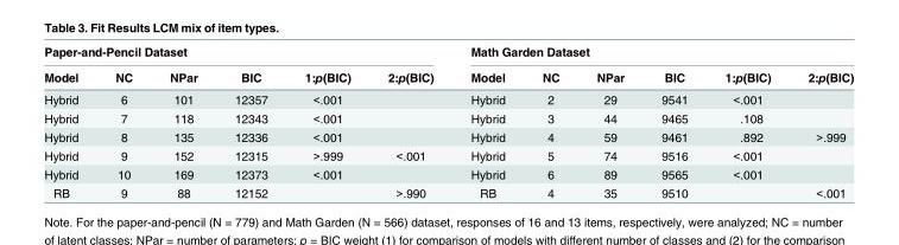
<table><thead><tr><td colspan="6">Paper-and-Pencil Dataset</td><td colspan="6">Math Garden Dataset</td></tr><tr><td>Model</td><td>NC</td><td>NPar</td><td>BIC</td><td>1:p(BIC)</td><td>2:p(BIC)</td><td>Model</td><td>NC</td><td>NPar</td><td>BIC</td><td>1:p(BIC)</td><td>2:p(BIC)</td></tr></thead><tbody><tr><td>Hybrid</td><td>6</td><td>101</td><td>12357</td><td>&lt;.001</td><td></td><td>Hybrid</td><td>2</td><td>29</td><td>9541</td><td>&lt;.001</td><td></td></tr><tr><td>Hybrid</td><td>7</td><td>118</td><td>12343</td><td>&lt;.001</td><td></td><td>Hybrid</td><td>3</td><td>44</td><td>9465</td><td>.108</td><td></td></tr><tr><td>Hybrid</td><td>8</td><td>135</td><td>12336</td><td>&lt;.001</td><td></td><td>Hybrid</td><td>4</td><td>59</td><td>9461</td><td>.892</td><td>&gt;.999</td></tr><tr><td>Hybrid</td><td>9</td><td>152</td><td>12315</td><td>&gt;.999</td><td>&lt;.001</td><td>Hybrid</td><td>5</td><td>74</td><td>9516</td><td>&lt;.001</td><td></td></tr><tr><td>Hybrid</td><td>10</td><td>169</td><td>12373</td><td>&lt;.001</td><td></td><td>Hybrid</td><td>6</td><td>89</td><td>9565</td><td>&lt;.001</td><td></td></tr><tr><td>RB</td><td>9</td><td>88</td><td>12152</td><td></td><td>&gt;.990</td><td>RB</td><td>4</td><td>35</td><td>9510</td><td></td><td>&lt;.001</td></tr></tbody></table>